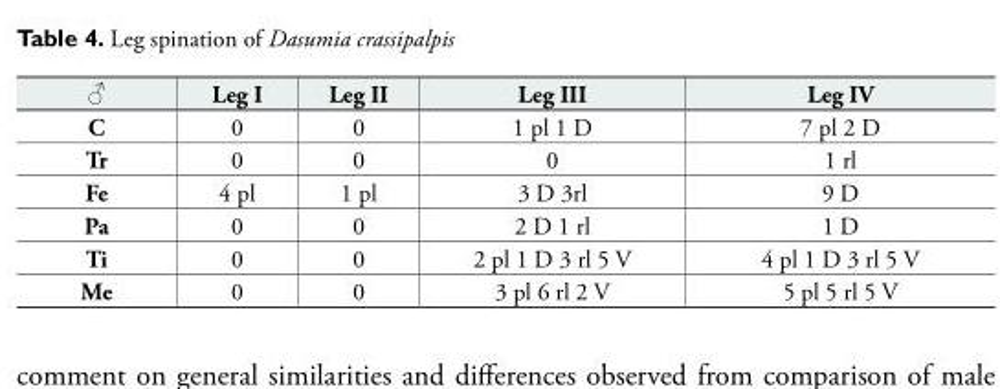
<table><tbody><tr><td>♂</td><td>Leg I</td><td>Leg II</td><td>Leg III</td><td>Leg IV</td></tr><tr><td>C</td><td>0</td><td>0</td><td>1 pl 1 D</td><td>7 pl 2 D</td></tr><tr><td>Tr</td><td>0</td><td>0</td><td>0</td><td>1 rl</td></tr><tr><td>Fe</td><td>4 pl</td><td>1 pl</td><td>3 D 3rl</td><td>9 D</td></tr><tr><td>Pa</td><td>0</td><td>0</td><td>2 D 1 rl</td><td>1 D</td></tr><tr><td>Ti</td><td>0</td><td>0</td><td>2 pl 1 D 3 rl 5 V</td><td>4 pl 1 D 3 rl 5 V</td></tr><tr><td>Me</td><td>0</td><td>0</td><td>3 pl 6 rl 2 V</td><td>5 pl 5 rl 5 V</td></tr></tbody></table>